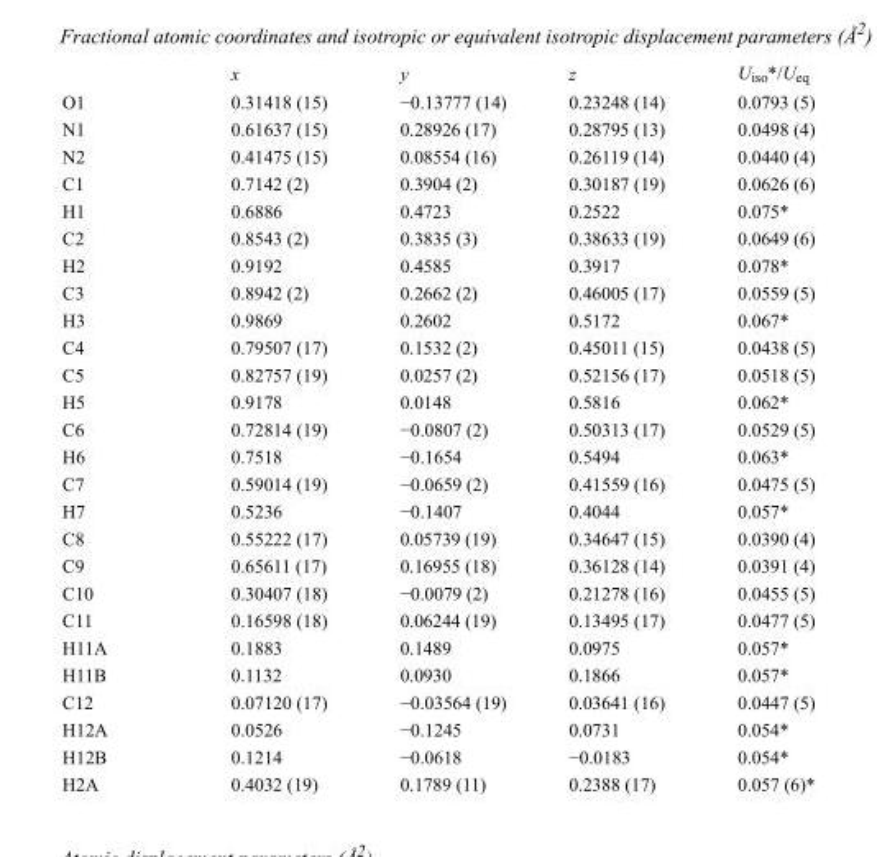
<table><thead><tr><td></td><td>x</td><td>y</td><td>z</td><td>U<sub>iso</sub>*/U<sub>eq</sub></td></tr></thead><tbody><tr><td>O1</td><td>0.31418 (15)</td><td>−0.13777 (14)</td><td>0.23248 (14)</td><td>0.0793 (5)</td></tr><tr><td>N1</td><td>0.61637 (15)</td><td>0.28926 (17)</td><td>0.28795 (13)</td><td>0.0498 (4)</td></tr><tr><td>N2</td><td>0.41475 (15)</td><td>0.08554 (16)</td><td>0.26119 (14)</td><td>0.0440 (4)</td></tr><tr><td>C1</td><td>0.7142 (2)</td><td>0.3904 (2)</td><td>0.30187 (19)</td><td>0.0626 (6)</td></tr><tr><td>H1</td><td>0.6886</td><td>0.4723</td><td>0.2522</td><td>0.075*</td></tr><tr><td>C2</td><td>0.8543 (2)</td><td>0.3835 (3)</td><td>0.38633 (19)</td><td>0.0649 (6)</td></tr><tr><td>H2</td><td>0.9192</td><td>0.4585</td><td>0.3917</td><td>0.078*</td></tr><tr><td>C3</td><td>0.8942 (2)</td><td>0.2662 (2)</td><td>0.46005 (17)</td><td>0.0559 (5)</td></tr><tr><td>H3</td><td>0.9869</td><td>0.2602</td><td>0.5172</td><td>0.067*</td></tr><tr><td>C4</td><td>0.79507 (17)</td><td>0.1532 (2)</td><td>0.45011 (15)</td><td>0.0438 (5)</td></tr><tr><td>C5</td><td>0.82757 (19)</td><td>0.0257 (2)</td><td>0.52156 (17)</td><td>0.0518 (5)</td></tr><tr><td>H5</td><td>0.9178</td><td>0.0148</td><td>0.5816</td><td>0.062*</td></tr><tr><td>C6</td><td>0.72814 (19)</td><td>−0.0807 (2)</td><td>0.50313 (17)</td><td>0.0529 (5)</td></tr><tr><td>H6</td><td>0.7518</td><td>−0.1654</td><td>0.5494</td><td>0.063*</td></tr><tr><td>C7</td><td>0.59014 (19)</td><td>−0.0659 (2)</td><td>0.41559 (16)</td><td>0.0475 (5)</td></tr><tr><td>H7</td><td>0.5236</td><td>−0.1407</td><td>0.4044</td><td>0.057*</td></tr><tr><td>C8</td><td>0.55222 (17)</td><td>0.05739 (19)</td><td>0.34647 (15)</td><td>0.0390 (4)</td></tr><tr><td>C9</td><td>0.65611 (17)</td><td>0.16955 (18)</td><td>0.36128 (14)</td><td>0.0391 (4)</td></tr><tr><td>C10</td><td>0.30407 (18)</td><td>−0.0079 (2)</td><td>0.21278 (16)</td><td>0.0455 (5)</td></tr><tr><td>C11</td><td>0.16598 (18)</td><td>0.06244 (19)</td><td>0.13495 (17)</td><td>0.0477 (5)</td></tr><tr><td>H11A</td><td>0.1883</td><td>0.1489</td><td>0.0975</td><td>0.057*</td></tr><tr><td>H11B</td><td>0.1132</td><td>0.0930</td><td>0.1866</td><td>0.057*</td></tr><tr><td>C12</td><td>0.07120 (17)</td><td>−0.03564 (19)</td><td>0.03641 (16)</td><td>0.0447 (5)</td></tr><tr><td>H12A</td><td>0.0526</td><td>−0.1245</td><td>0.0731</td><td>0.054*</td></tr><tr><td>H12B</td><td>0.1214</td><td>−0.0618</td><td>−0.0183</td><td>0.054*</td></tr><tr><td>H2A</td><td>0.4032 (19)</td><td>0.1789 (11)</td><td>0.2388 (17)</td><td>0.057 (6)*</td></tr></tbody></table>